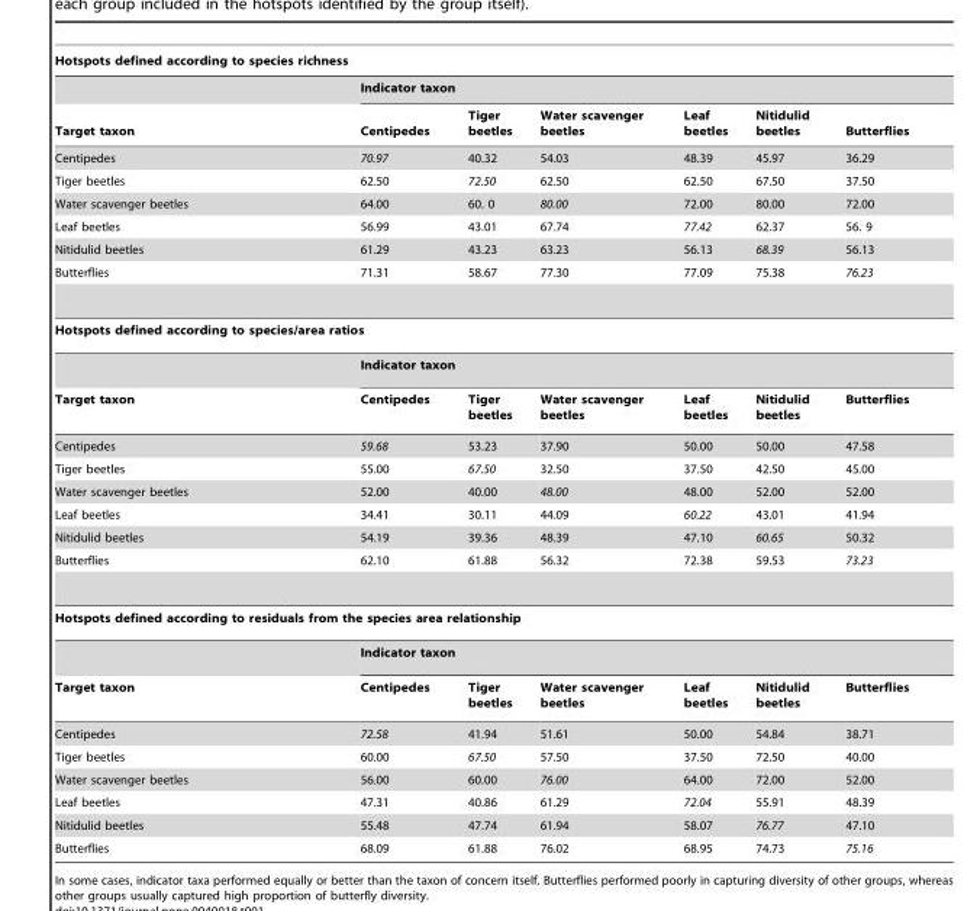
<table><thead><tr><td colspan="7">Hotspots defined according to species richness</td></tr><tr><td rowspan="2">Target taxon</td><td colspan="6">Indicator taxon</td></tr><tr><td>Centipedes</td><td>Tiger beetles</td><td>Water scavenger beetles</td><td>Leaf beetles</td><td>Nitidulid beetles</td><td>Butterflies</td></tr></thead><tbody><tr><td>Centipedes</td><td>70.97</td><td>40.32</td><td>54.03</td><td>48.39</td><td>45.97</td><td>36.29</td></tr><tr><td>Tiger beetles</td><td>62.50</td><td>72.50</td><td>62.50</td><td>62.50</td><td>67.50</td><td>37.50</td></tr><tr><td>Water scavenger beetles</td><td>64.00</td><td>60. 0</td><td>80.00</td><td>72.00</td><td>80.00</td><td>72.00</td></tr><tr><td>Leaf beetles</td><td>56.99</td><td>43.01</td><td>67.74</td><td>77.42</td><td>62.37</td><td>56. 9</td></tr><tr><td>Nitidulid beetles</td><td>61.29</td><td>43.23</td><td>63.23</td><td>56.13</td><td>68.39</td><td>56.13</td></tr><tr><td>Butterflies</td><td>71.31</td><td>58.67</td><td>77.30</td><td>77.09</td><td>75.38</td><td>76.23</td></tr><tr><td colspan="7">Hotspots defined according to species/area ratios</td></tr><tr><td></td><td colspan="6">Indicator taxon</td></tr><tr><td>Target taxon</td><td>Centipedes</td><td>Tiger beetles</td><td>Water scavenger beetles</td><td>Leaf beetles</td><td>Nitidulid beetles</td><td>Butterflies</td></tr><tr><td>Centipedes</td><td>59.68</td><td>53.23</td><td>37.90</td><td>50.00</td><td>50.00</td><td>47.58</td></tr><tr><td>Tiger beetles</td><td>55.00</td><td>67.50</td><td>32.50</td><td>37.50</td><td>42.50</td><td>45.00</td></tr><tr><td>Water scavenger beetles</td><td>52.00</td><td>40.00</td><td>48.00</td><td>48.00</td><td>52.00</td><td>52.00</td></tr><tr><td>Leaf beetles</td><td>34.41</td><td>30.11</td><td>44.09</td><td>60.22</td><td>43.01</td><td>41.94</td></tr><tr><td>Nitidulid beetles</td><td>54.19</td><td>39.36</td><td>48.39</td><td>47.10</td><td>60.65</td><td>50.32</td></tr><tr><td>Butterflies</td><td>62.10</td><td>61.88</td><td>56.32</td><td>72.38</td><td>59.53</td><td>73.23</td></tr><tr><td colspan="7">Hotspots defined according to residuals from the species area relationship</td></tr><tr><td></td><td colspan="6">Indicator taxon</td></tr><tr><td>Target taxon</td><td>Centipedes</td><td>Tiger beetles</td><td>Water scavenger beetles</td><td>Leaf beetles</td><td>Nitidulid beetles</td><td>Butterflies</td></tr><tr><td>Centipedes</td><td>72.58</td><td>41.94</td><td>51.61</td><td>50.00</td><td>54.84</td><td>38.71</td></tr><tr><td>Tiger beetles</td><td>60.00</td><td>67.50</td><td>57.50</td><td>37.50</td><td>72.50</td><td>40.00</td></tr><tr><td>Water scavenger beetles</td><td>56.00</td><td>60.00</td><td>76.00</td><td>64.00</td><td>72.00</td><td>52.00</td></tr><tr><td>Leaf beetles</td><td>47.31</td><td>40.86</td><td>61.29</td><td>72.04</td><td>55.91</td><td>48.39</td></tr><tr><td>Nitidulid beetles</td><td>55.48</td><td>47.74</td><td>61.94</td><td>58.07</td><td>76.77</td><td>47.10</td></tr><tr><td>Butterflies</td><td>68.09</td><td>61.88</td><td>76.02</td><td>68.95</td><td>74.73</td><td>75.16</td></tr></tbody></table>